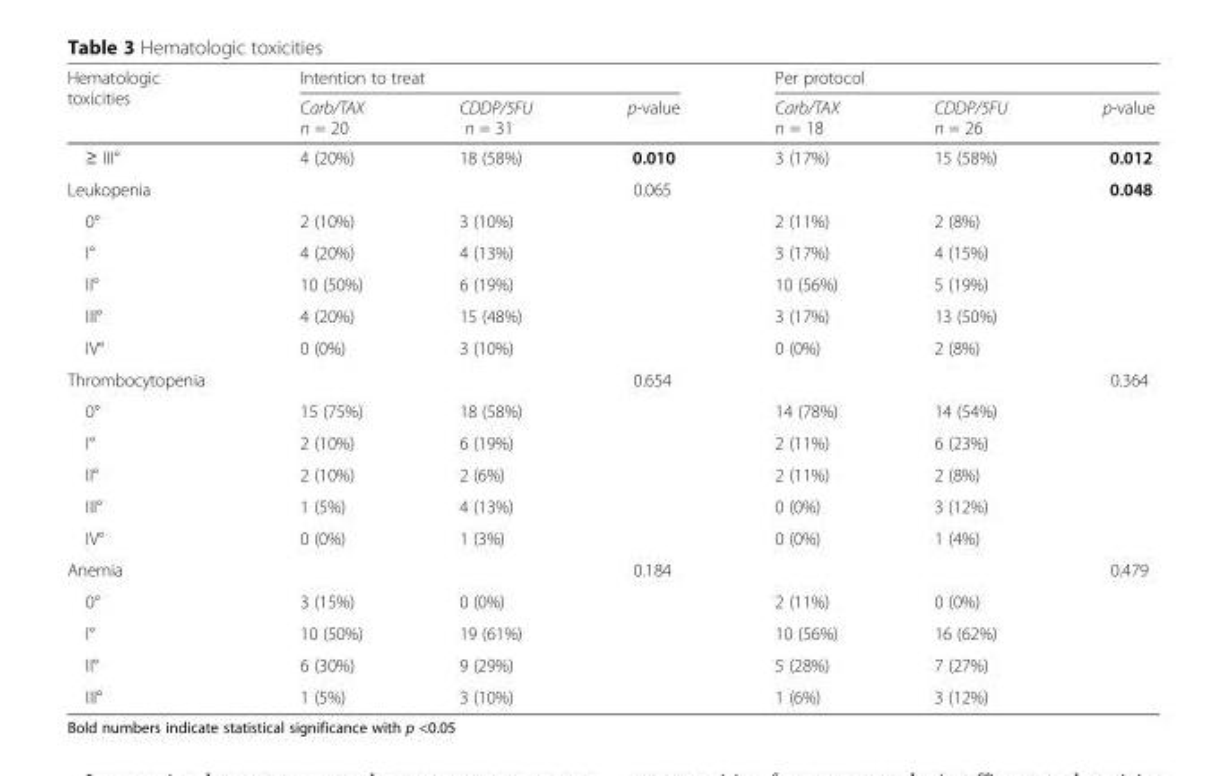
<table><thead><tr><td rowspan="2">Hematologic toxicities</td><td colspan="3">Intention to treat</td><td colspan="3">Per protocol</td></tr><tr><td>Carb/TAX n = 20</td><td>CDDP/5FU n = 31</td><td>p-value</td><td>Carb/TAX n = 18</td><td>CDDP/5FU n = 26</td><td>p-value</td></tr></thead><tbody><tr><td>≥ III°</td><td>4 (20%)</td><td>18 (58%)</td><td>0.010</td><td>3 (17%)</td><td>15 (58%)</td><td>0.012</td></tr><tr><td>Leukopenia</td><td></td><td></td><td>0.065</td><td></td><td></td><td>0.048</td></tr><tr><td>0°</td><td>2 (10%)</td><td>3 (10%)</td><td></td><td>2 (11%)</td><td>2 (8%)</td><td></td></tr><tr><td>I°</td><td>4 (20%)</td><td>4 (13%)</td><td></td><td>3 (17%)</td><td>4 (15%)</td><td></td></tr><tr><td>II°</td><td>10 (50%)</td><td>6 (19%)</td><td></td><td>10 (56%)</td><td>5 (19%)</td><td></td></tr><tr><td>III°</td><td>4 (20%)</td><td>15 (48%)</td><td></td><td>3 (17%)</td><td>13 (50%)</td><td></td></tr><tr><td>IV°</td><td>0 (0%)</td><td>3 (10%)</td><td></td><td>0 (0%)</td><td>2 (8%)</td><td></td></tr><tr><td>Thrombocytopenia</td><td></td><td></td><td>0.654</td><td></td><td></td><td>0.364</td></tr><tr><td>0°</td><td>15 (75%)</td><td>18 (58%)</td><td></td><td>14 (78%)</td><td>14 (54%)</td><td></td></tr><tr><td>I°</td><td>2 (10%)</td><td>6 (19%)</td><td></td><td>2 (11%)</td><td>6 (23%)</td><td></td></tr><tr><td>II°</td><td>2 (10%)</td><td>2 (6%)</td><td></td><td>2 (11%)</td><td>2 (8%)</td><td></td></tr><tr><td>III°</td><td>1 (5%)</td><td>4 (13%)</td><td></td><td>0 (0%)</td><td>3 (12%)</td><td></td></tr><tr><td>IV°</td><td>0 (0%)</td><td>1 (3%)</td><td></td><td>0 (0%)</td><td>1 (4%)</td><td></td></tr><tr><td>Anemia</td><td></td><td></td><td>0.184</td><td></td><td></td><td>0.479</td></tr><tr><td>0°</td><td>3 (15%)</td><td>0 (0%)</td><td></td><td>2 (11%)</td><td>0 (0%)</td><td></td></tr><tr><td>I°</td><td>10 (50%)</td><td>19 (61%)</td><td></td><td>10 (56%)</td><td>16 (62%)</td><td></td></tr><tr><td>II°</td><td>6 (30%)</td><td>9 (29%)</td><td></td><td>5 (28%)</td><td>7 (27%)</td><td></td></tr><tr><td>III°</td><td>1 (5%)</td><td>3 (10%)</td><td></td><td>1 (6%)</td><td>3 (12%)</td><td></td></tr></tbody></table>